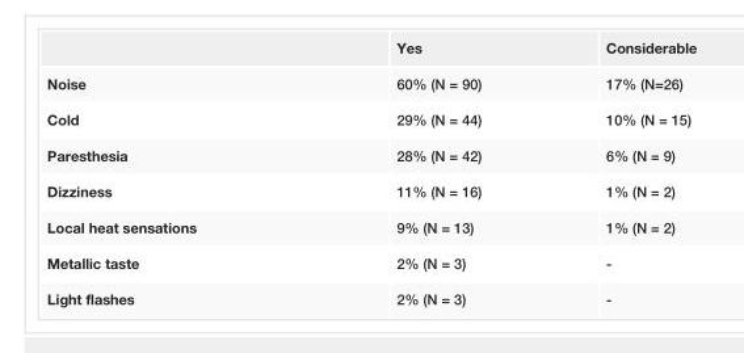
<table><thead><tr><td></td><td>Yes</td><td>Considerable</td></tr></thead><tbody><tr><td>Noise</td><td>60% (N = 90)</td><td>17% (N=26)</td></tr><tr><td>Cold</td><td>29% (N = 44)</td><td>10% (N = 15)</td></tr><tr><td>Paresthesia</td><td>28% (N = 42)</td><td>6% (N = 9)</td></tr><tr><td>Dizziness</td><td>11% (N = 16)</td><td>1% (N = 2)</td></tr><tr><td>Local heat sensations</td><td>9% (N = 13)</td><td>1% (N = 2)</td></tr><tr><td>Metallic taste</td><td>2% (N = 3)</td><td>-</td></tr><tr><td>Light flashes</td><td>2% (N = 3)</td><td>-</td></tr></tbody></table>